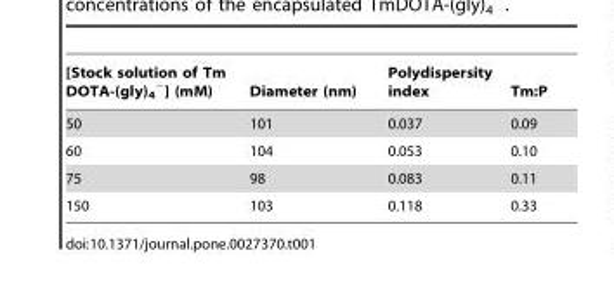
<table><thead><tr><td>[Stock solution of Tm DOTA-(gly)<sub>4</sub> <sup>−</sup>] (mM)</td><td>Diameter (nm)</td><td>Polydispersity index</td><td>Tm:P</td></tr></thead><tbody><tr><td>50</td><td>101</td><td>0.037</td><td>0.09</td></tr><tr><td>60</td><td>104</td><td>0.053</td><td>0.10</td></tr><tr><td>75</td><td>98</td><td>0.083</td><td>0.11</td></tr><tr><td>150</td><td>103</td><td>0.118</td><td>0.33</td></tr></tbody></table>